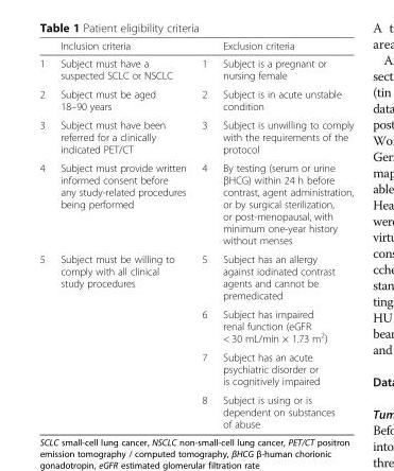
<table><thead><tr><td></td><td>Inclusion criteria</td><td></td><td>Exclusion criteria</td></tr></thead><tbody><tr><td>1</td><td>Subject must have a suspected SCLC or NSCLC</td><td>1</td><td>Subject is a pregnant or nursing female</td></tr><tr><td>2</td><td>Subject must be aged 18–90 years</td><td>2</td><td>Subject is in acute unstable condition</td></tr><tr><td>3</td><td>Subject must have been referred for a clinically indicated PET/CT</td><td>3</td><td>Subject is unwilling to comply with the requirements of the protocol</td></tr><tr><td>4</td><td>Subject must provide written informed consent before any study-related procedures being performed</td><td>4</td><td>By testing (serum or urine βHCG) within 24 h before contrast, agent administration, or by surgical sterilization, or post-menopausal, with minimum one-year history without menses</td></tr><tr><td rowspan="4">5</td><td>Subject must be willing to comply with all clinical study procedures</td><td>5</td><td>Subject has an allergy against iodinated contrast agents and cannot be premedicated</td></tr><tr><td></td><td>6</td><td>Subject has impaired renal function (eGFR &lt; 30 mL/min × 1.73 m<sup>2</sup>)</td></tr><tr><td></td><td>7</td><td>Subject has an acute psychiatric disorder or is cognitively impaired</td></tr><tr><td></td><td>8</td><td>Subject is using or is dependent on substances of abuse</td></tr></tbody></table>